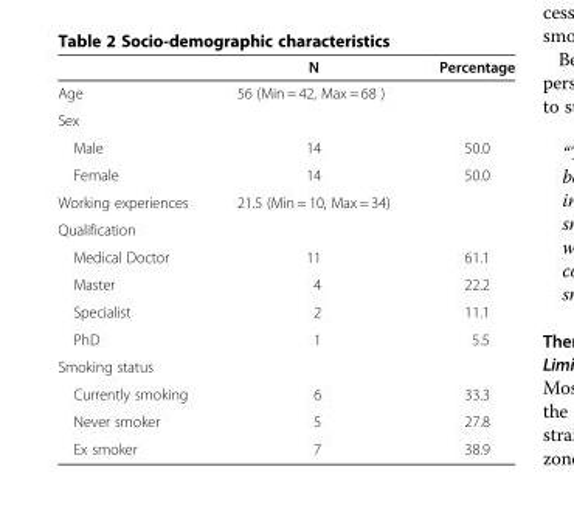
<table><thead><tr><td></td><td>N</td><td>Percentage</td></tr></thead><tbody><tr><td>Age</td><td>56 (Min = 42, Max = 68 )</td><td></td></tr><tr><td colspan="3">Sex</td></tr><tr><td>Male</td><td>14</td><td>50.0</td></tr><tr><td>Female</td><td>14</td><td>50.0</td></tr><tr><td>Working experiences</td><td>21.5 (Min = 10, Max = 34)</td><td></td></tr><tr><td colspan="3">Qualification</td></tr><tr><td>Medical Doctor</td><td>11</td><td>61.1</td></tr><tr><td>Master</td><td>4</td><td>22.2</td></tr><tr><td>Specialist</td><td>2</td><td>11.1</td></tr><tr><td>PhD</td><td>1</td><td>5.5</td></tr><tr><td colspan="3">Smoking status</td></tr><tr><td>Currently smoking</td><td>6</td><td>33.3</td></tr><tr><td>Never smoker</td><td>5</td><td>27.8</td></tr><tr><td>Ex smoker</td><td>7</td><td>38.9</td></tr></tbody></table>